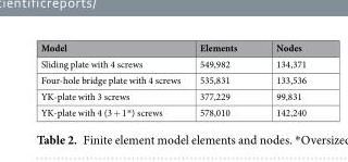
<table><thead><tr><td>Model</td><td>Elements</td><td>Nodes</td></tr></thead><tbody><tr><td>Sliding plate with 4 screws</td><td>549,982</td><td>134,371</td></tr><tr><td>Four-hole bridge plate with 4 screws</td><td>535,831</td><td>133,536</td></tr><tr><td>YK-plate with 3 screws</td><td>377,229</td><td>99,831</td></tr><tr><td>YK-plate with 4 (3 + 1*) screws</td><td>578,010</td><td>142,240</td></tr></tbody></table>